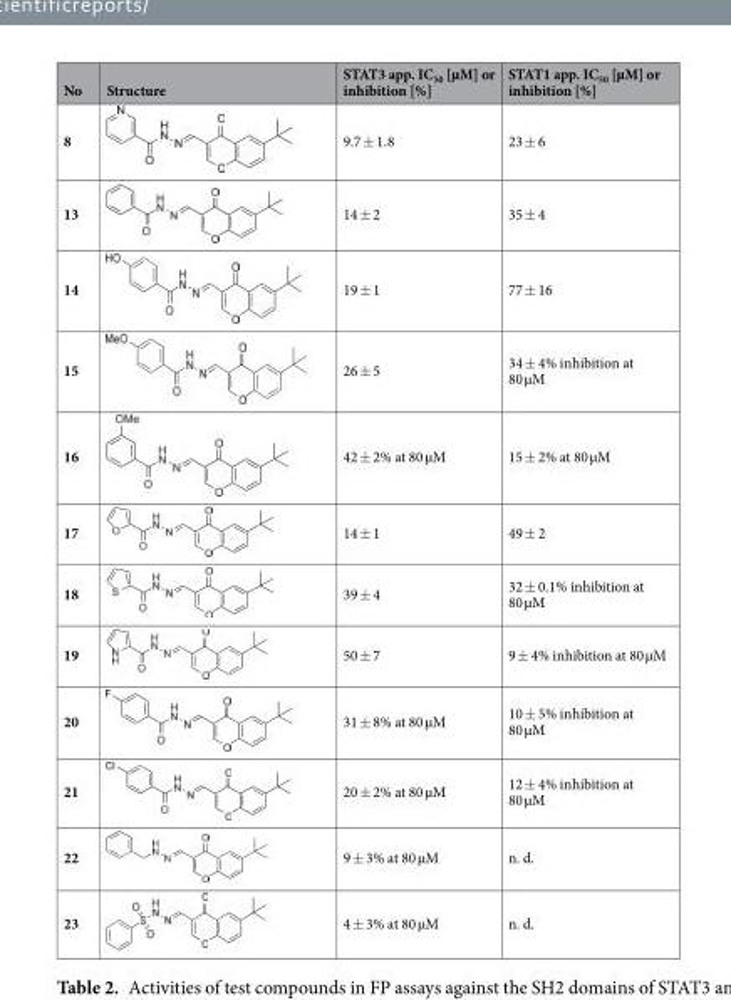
<table><thead><tr><td>No</td><td>Structure</td><td>STAT3 app. IC<sub>50</sub> [µM] or inhibition [%]</td><td>STAT1 app. IC<sub>50</sub> [µM] or inhibition [%]</td></tr></thead><tbody><tr><td>8</td><td></td><td>9.7 ± 1.8</td><td>23 ± 6</td></tr><tr><td>13</td><td></td><td>14 ± 2</td><td>35 ± 4</td></tr><tr><td>14</td><td></td><td>19 ± 1</td><td>77 ± 16</td></tr><tr><td>15</td><td></td><td>26 ± 5</td><td>34 ± 4% inhibition at 80 µM</td></tr><tr><td>16</td><td></td><td>42 ± 2% at 80 µM</td><td>15 ± 2% at 80 µM</td></tr><tr><td>17</td><td></td><td>14 ± 1</td><td>49 ± 2</td></tr><tr><td>18</td><td></td><td>39 ± 4</td><td>32 ± 0.1% inhibition at 80 µM</td></tr><tr><td>19</td><td></td><td>50 ± 7</td><td>9 ± 4% inhibition at 80 µM</td></tr><tr><td>20</td><td></td><td>31 ± 8% at 80 µM</td><td>10 ± 5% inhibition at 80 µM</td></tr><tr><td>21</td><td></td><td>20 ± 2% at 80 µM</td><td>12 ± 4% inhibition at 80 µM</td></tr><tr><td>22</td><td></td><td>9 ± 3% at 80 µM</td><td>n. d.</td></tr><tr><td>23</td><td></td><td>4 ± 3% at 80 µM</td><td>n. d.</td></tr></tbody></table>